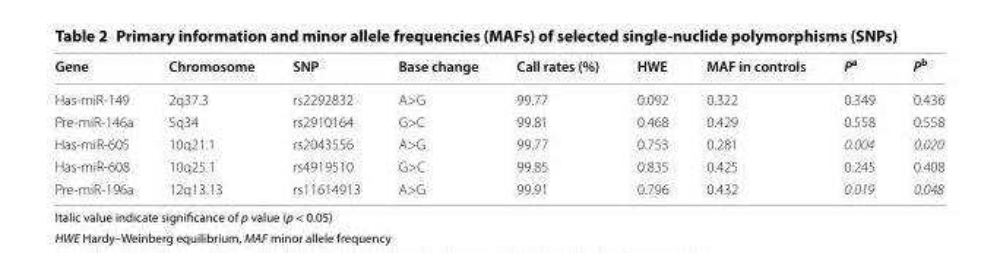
<table><thead><tr><td>Gene</td><td>Chromosome</td><td>SNP</td><td>Base change</td><td>Call rates (%)</td><td>HWE</td><td>MAF in controls</td><td>P<sup>a</sup></td><td>P<sup>b</sup></td></tr></thead><tbody><tr><td>Has-miR-149</td><td>2q37.3</td><td>rs2292832</td><td>A&gt;G</td><td>99.77</td><td>0.092</td><td>0.322</td><td>0.349</td><td>0.436</td></tr><tr><td>Pre-miR-146a</td><td>5q34</td><td>rs2910164</td><td>G&gt;C</td><td>99.81</td><td>0.468</td><td>0.429</td><td>0.558</td><td>0.558</td></tr><tr><td>Has-miR-605</td><td>10q21.1</td><td>rs2043556</td><td>A&gt;G</td><td>99.77</td><td>0.753</td><td>0.281</td><td>0.004</td><td>0.020</td></tr><tr><td>Has-miR-608</td><td>10q25.1</td><td>rs4919510</td><td>G&gt;C</td><td>99.85</td><td>0.835</td><td>0.425</td><td>0.245</td><td>0.408</td></tr><tr><td>Pre-miR-196a</td><td>12q13.13</td><td>rs11614913</td><td>A&gt;G</td><td>99.91</td><td>0.796</td><td>0.432</td><td>0.019</td><td>0.048</td></tr></tbody></table>